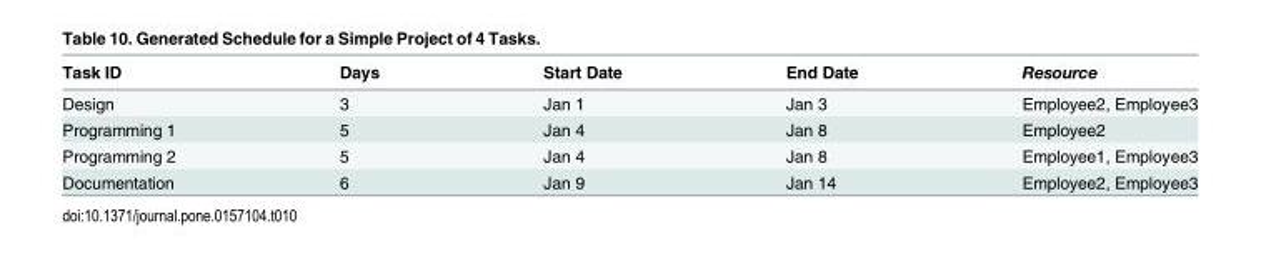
<table><thead><tr><td>Task ID</td><td>Days</td><td>Start Date</td><td>End Date</td><td>Resource</td></tr></thead><tbody><tr><td>Design</td><td>3</td><td>Jan 1</td><td>Jan 3</td><td>Employee2, Employee3</td></tr><tr><td>Programming 1</td><td>5</td><td>Jan 4</td><td>Jan 8</td><td>Employee2</td></tr><tr><td>Programming 2</td><td>5</td><td>Jan 4</td><td>Jan 8</td><td>Employee1, Employee3</td></tr><tr><td>Documentation</td><td>6</td><td>Jan 9</td><td>Jan 14</td><td>Employee2, Employee3</td></tr></tbody></table>